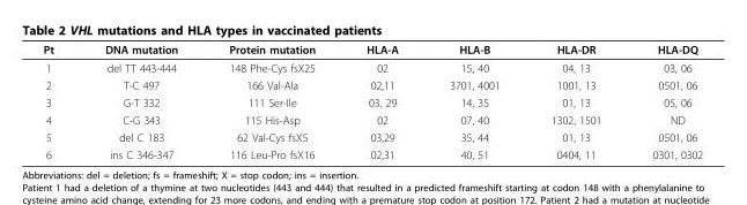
<table><thead><tr><td>Pt</td><td>DNA mutation</td><td>Protein mutation</td><td>HLA-A</td><td>HLA-B</td><td>HLA-DR</td><td>HLA-DQ</td></tr></thead><tbody><tr><td>1</td><td>del TT 443-444</td><td>148 Phe-Cys fsX25</td><td>02</td><td>15, 40</td><td>04, 13</td><td>03, 06</td></tr><tr><td>2</td><td>T-C 497</td><td>166 Val-Ala</td><td>02,11</td><td>3701, 4001</td><td>1001, 13</td><td>0501, 06</td></tr><tr><td>3</td><td>G-T 332</td><td>111 Ser-Ile</td><td>03, 29</td><td>14, 35</td><td>01, 13</td><td>05, 06</td></tr><tr><td>4</td><td>C-G 343</td><td>115 His-Asp</td><td>02</td><td>07, 40</td><td>1302, 1501</td><td>ND</td></tr><tr><td>5</td><td>del C 183</td><td>62 Val-Cys fsX5</td><td>03,29</td><td>35, 44</td><td>01, 13</td><td>0501, 06</td></tr><tr><td>6</td><td>ins C 346-347</td><td>116 Leu-Pro fsX16</td><td>02,31</td><td>40, 51</td><td>0404, 11</td><td>0301, 0302</td></tr></tbody></table>